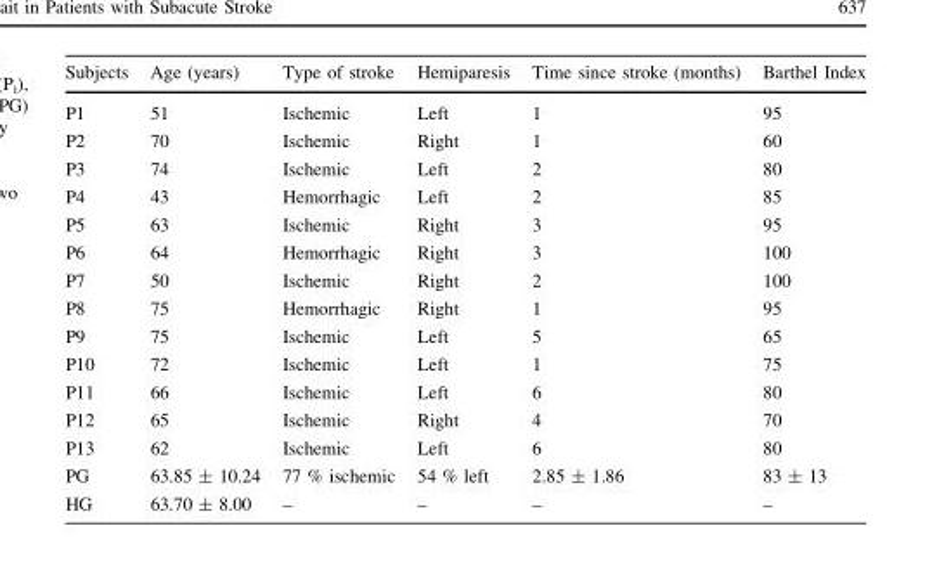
<table><thead><tr><td>Subjects</td><td>Age (years)</td><td>Type of stroke</td><td>Hemiparesis</td><td>Time since stroke (months)</td><td>Barthel Index</td></tr></thead><tbody><tr><td>P1</td><td>51</td><td>Ischemic</td><td>Left</td><td>1</td><td>95</td></tr><tr><td>P2</td><td>70</td><td>Ischemic</td><td>Right</td><td>1</td><td>60</td></tr><tr><td>P3</td><td>74</td><td>Ischemic</td><td>Left</td><td>2</td><td>80</td></tr><tr><td>P4</td><td>43</td><td>Hemorrhagic</td><td>Left</td><td>2</td><td>85</td></tr><tr><td>P5</td><td>63</td><td>Ischemic</td><td>Right</td><td>3</td><td>95</td></tr><tr><td>P6</td><td>64</td><td>Hemorrhagic</td><td>Right</td><td>3</td><td>100</td></tr><tr><td>P7</td><td>50</td><td>Ischemic</td><td>Right</td><td>2</td><td>100</td></tr><tr><td>P8</td><td>75</td><td>Hemorrhagic</td><td>Right</td><td>1</td><td>95</td></tr><tr><td>P9</td><td>75</td><td>Ischemic</td><td>Left</td><td>5</td><td>65</td></tr><tr><td>P10</td><td>72</td><td>Ischemic</td><td>Left</td><td>1</td><td>75</td></tr><tr><td>P11</td><td>66</td><td>Ischemic</td><td>Left</td><td>6</td><td>80</td></tr><tr><td>P12</td><td>65</td><td>Ischemic</td><td>Right</td><td>4</td><td>70</td></tr><tr><td>P13</td><td>62</td><td>Ischemic</td><td>Left</td><td>6</td><td>80</td></tr><tr><td>PG</td><td>63.85 ± 10.24</td><td>77 % ischemic</td><td>54 % left</td><td>2.85 ± 1.86</td><td>83 ± 13</td></tr><tr><td>HG</td><td>63.70 ± 8.00</td><td>–</td><td>–</td><td>–</td><td>–</td></tr></tbody></table>